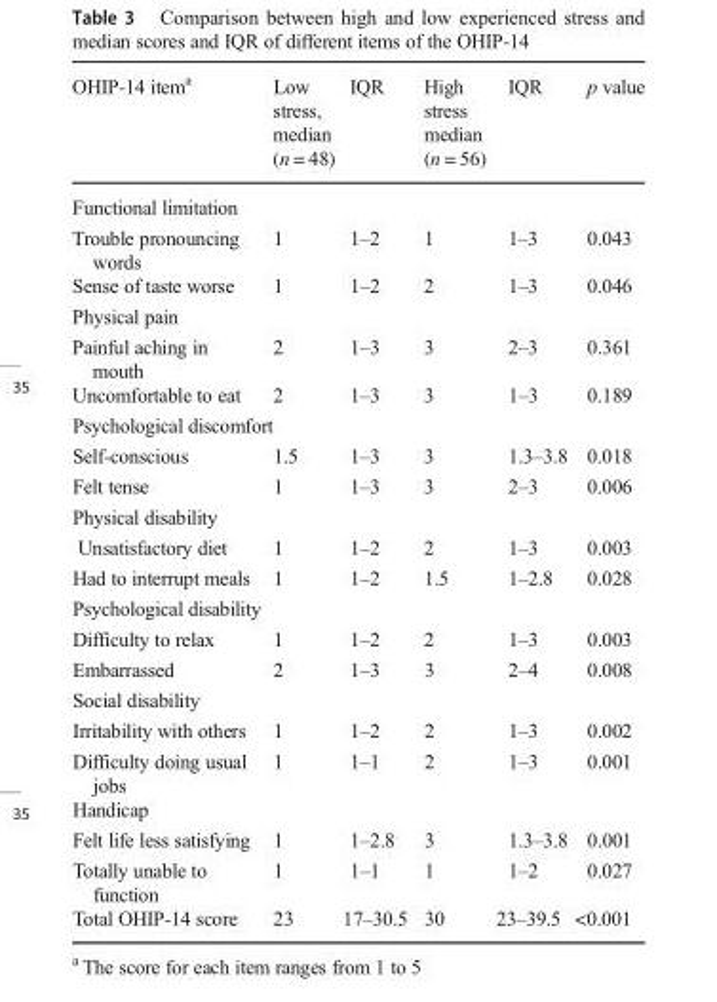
<table><thead><tr><td>OHIP-14 item<sup>a</sup></td><td>Low stress, median (n = 48)</td><td>IQR</td><td>High stress median (n = 56)</td><td>IQR</td><td>p value</td></tr></thead><tbody><tr><td colspan="6">Functional limitation</td></tr><tr><td>Trouble pronouncing words</td><td>1</td><td>1–2</td><td>1</td><td>1–3</td><td>0.043</td></tr><tr><td>Sense of taste worse</td><td>1</td><td>1–2</td><td>2</td><td>1–3</td><td>0.046</td></tr><tr><td colspan="6">Physical pain</td></tr><tr><td>Painful aching in mouth</td><td>2</td><td>1–3</td><td>3</td><td>2–3</td><td>0.361</td></tr><tr><td>Uncomfortable to eat</td><td>2</td><td>1–3</td><td>3</td><td>1–3</td><td>0.189</td></tr><tr><td colspan="6">Psychological discomfort</td></tr><tr><td>Self-conscious</td><td>1.5</td><td>1–3</td><td>3</td><td>1.3–3.8</td><td>0.018</td></tr><tr><td>Felt tense</td><td>1</td><td>1–3</td><td>3</td><td>2–3</td><td>0.006</td></tr><tr><td colspan="6">Physical disability</td></tr><tr><td>Unsatisfactory diet</td><td>1</td><td>1–2</td><td>2</td><td>1–3</td><td>0.003</td></tr><tr><td>Had to interrupt meals</td><td>1</td><td>1–2</td><td>1.5</td><td>1–2.8</td><td>0.028</td></tr><tr><td colspan="6">Psychological disability</td></tr><tr><td>Difficulty to relax</td><td>1</td><td>1–2</td><td>2</td><td>1–3</td><td>0.003</td></tr><tr><td>Embarrassed</td><td>2</td><td>1–3</td><td>3</td><td>2–4</td><td>0.008</td></tr><tr><td colspan="6">Social disability</td></tr><tr><td>Irritability with others</td><td>1</td><td>1–2</td><td>2</td><td>1–3</td><td>0.002</td></tr><tr><td>Difficulty doing usual jobs</td><td>1</td><td>1–1</td><td>2</td><td>1–3</td><td>0.001</td></tr><tr><td colspan="6">Handicap</td></tr><tr><td>Felt life less satisfying</td><td>1</td><td>1–2.8</td><td>3</td><td>1.3–3.8</td><td>0.001</td></tr><tr><td>Totally unable to function</td><td>1</td><td>1–1</td><td>1</td><td>1–2</td><td>0.027</td></tr><tr><td>Total OHIP-14 score</td><td>23</td><td>17–30.5</td><td>30</td><td>23–39.5</td><td>&lt;0.001</td></tr></tbody></table>